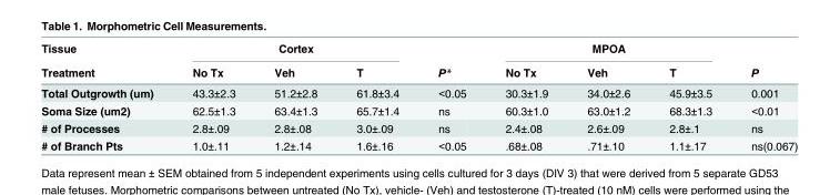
<table><thead><tr><td rowspan="2">Tissue Treatment</td><td colspan="3">Cortex</td><td rowspan="2">P*</td><td colspan="3">MPOA</td><td rowspan="2">P</td></tr><tr><td>No Tx</td><td>Veh</td><td>T</td><td>No Tx</td><td>Veh</td><td>T</td></tr></thead><tbody><tr><td>Total Outgrowth (um)</td><td>43.3±2.3</td><td>51.2±2.8</td><td>61.8±3.4</td><td>&lt;0.05</td><td>30.3±1.9</td><td>34.0±2.6</td><td>45.9±3.5</td><td>0.001</td></tr><tr><td>Soma Size (um2)</td><td>62.5±1.3</td><td>63.4±1.3</td><td>65.7±1.4</td><td>ns</td><td>60.3±1.0</td><td>63.0±1.2</td><td>68.3±1.3</td><td>&lt;0.01</td></tr><tr><td># of Processes</td><td>2.8±.09</td><td>2.8±.08</td><td>3.0±.09</td><td>ns</td><td>2.4±.08</td><td>2.6±.09</td><td>2.8±.1</td><td>ns</td></tr><tr><td># of Branch Pts</td><td>1.0±.11</td><td>1.2±.14</td><td>1.6±.16</td><td>&lt;0.05</td><td>.68±.08</td><td>.71±.10</td><td>1.1±.17</td><td>ns(0.067)</td></tr></tbody></table>